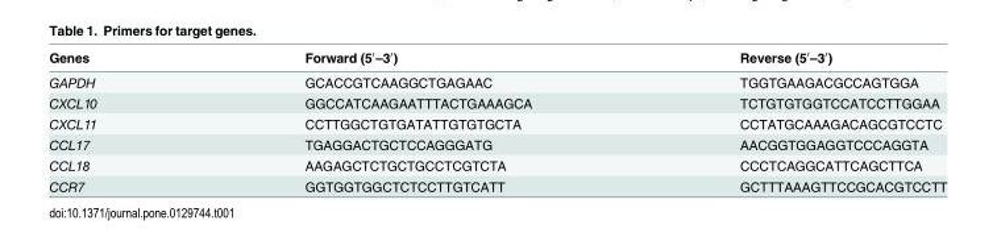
<table><thead><tr><td>Genes</td><td>Forward (5′–3′)</td><td>Reverse (5′–3′)</td></tr></thead><tbody><tr><td>GAPDH</td><td>GCACCGTCAAGGCTGAGAAC</td><td>TGGTGAAGACGCCAGTGGA</td></tr><tr><td>CXCL10</td><td>GGCCATCAAGAATTTACTGAAAGCA</td><td>TCTGTGTGGTCCATCCTTGGAA</td></tr><tr><td>CXCL11</td><td>CCTTGGCTGTGATATTGTGTGCTA</td><td>CCTATGCAAAGACAGCGTCCTC</td></tr><tr><td>CCL17</td><td>TGAGGACTGCTCCAGGGATG</td><td>AACGGTGGAGGTCCCAGGTA</td></tr><tr><td>CCL18</td><td>AAGAGCTCTGCTGCCTCGTCTA</td><td>CCCTCAGGCATTCAGCTTCA</td></tr><tr><td>CCR7</td><td>GGTGGTGGCTCTCCTTGTCATT</td><td>GCTTTAAAGTTCCGCACGTCCTT</td></tr></tbody></table>